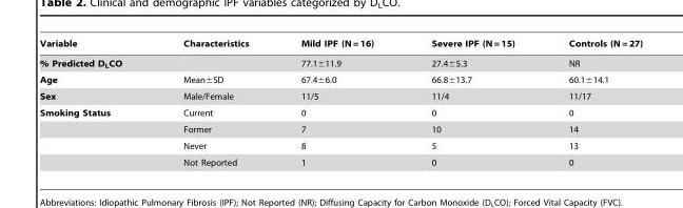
<table><thead><tr><td>Variable</td><td>Characteristics</td><td>Mild IPF (N = 16)</td><td>Severe IPF (N = 15)</td><td>Controls (N = 27)</td></tr></thead><tbody><tr><td>% Predicted D<sub>L</sub>CO</td><td></td><td>77.1±11.9</td><td>27.4±5.3</td><td>NR</td></tr><tr><td>Age</td><td>Mean±SD</td><td>67.4±6.0</td><td>66.8±13.7</td><td>60.1±14.1</td></tr><tr><td>Sex</td><td>Male/Female</td><td>11/5</td><td>11/4</td><td>11/17</td></tr><tr><td rowspan="4">Smoking Status</td><td>Current</td><td>0</td><td>0</td><td>0</td></tr><tr><td>Former</td><td>7</td><td>10</td><td>14</td></tr><tr><td>Never</td><td>8</td><td>5</td><td>13</td></tr><tr><td>Not Reported</td><td>1</td><td>0</td><td>0</td></tr></tbody></table>